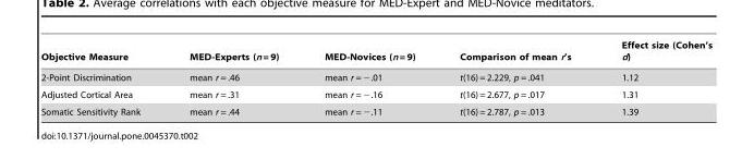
<table><thead><tr><td>Objective Measure</td><td>MED-Experts (n = 9)</td><td>MED-Novices (n = 9)</td><td>Comparison of mean r’s</td><td>Effect size (Cohen’s d)</td></tr></thead><tbody><tr><td>2-Point Discrimination</td><td>mean r = .46</td><td>mean r = −.01</td><td>t(16) = 2.229, p = .041</td><td>1.12</td></tr><tr><td>Adjusted Cortical Area</td><td>mean r = .31</td><td>mean r = −.16</td><td>t(16) = 2.677, p = .017</td><td>1.31</td></tr><tr><td>Somatic Sensitivity Rank</td><td>mean r = .44</td><td>mean r = −.11</td><td>t(16) = 2.787, p = .013</td><td>1.39</td></tr></tbody></table>